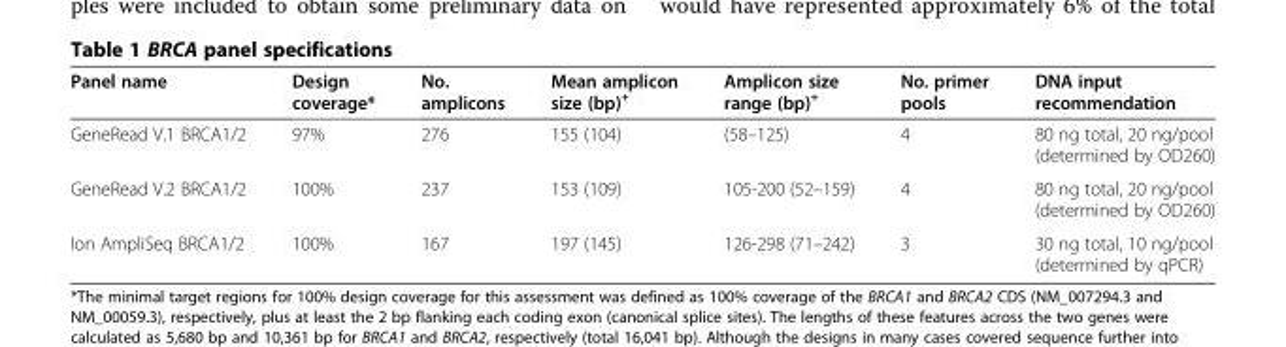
<table><thead><tr><td>Panel name</td><td>Design coverage*</td><td>No. amplicons</td><td>Mean amplicon size (bp)<sup>+</sup></td><td>Amplicon size range (bp)<sup>+</sup></td><td>No. primer pools</td><td>DNA input recommendation</td></tr></thead><tbody><tr><td>GeneRead V.1 BRCA1/2</td><td>97%</td><td>276</td><td>155 (104)</td><td>(58–125)</td><td>4</td><td>80 ng total, 20 ng/pool (determined by OD260)</td></tr><tr><td>GeneRead V.2 BRCA1/2</td><td>100%</td><td>237</td><td>153 (109)</td><td>105-200 (52–159)</td><td>4</td><td>80 ng total, 20 ng/pool (determined by OD260)</td></tr><tr><td>Ion AmpliSeq BRCA1/2</td><td>100%</td><td>167</td><td>197 (145)</td><td>126-298 (71–242)</td><td>3</td><td>30 ng total, 10 ng/pool (determined by qPCR)</td></tr></tbody></table>